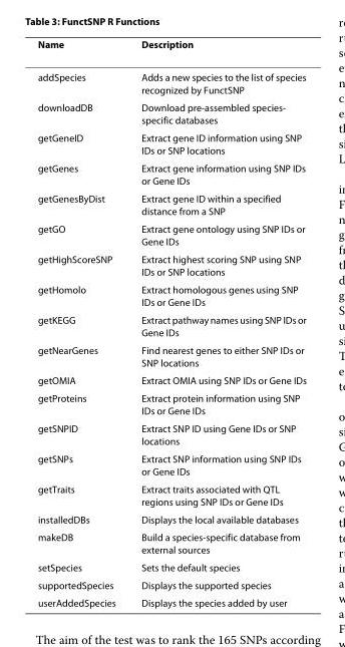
<table><thead><tr><td>Name</td><td>Description</td></tr></thead><tbody><tr><td>addSpecies</td><td>Adds a new species to the list of species recognized by FunctSNP</td></tr><tr><td>downloadDB</td><td>Download pre-assembled species- specific databases</td></tr><tr><td>getGeneID</td><td>Extract gene ID information using SNP IDs or SNP locations</td></tr><tr><td>getGenes</td><td>Extract gene information using SNP IDs or Gene IDs</td></tr><tr><td>getGenesByDist</td><td>Extract gene ID within a specified distance from a SNP</td></tr><tr><td>getGO</td><td>Extract gene ontology using SNP IDs or Gene IDs</td></tr><tr><td>getHighScoreSNP</td><td>Extract highest scoring SNP using SNP IDs or SNP locations</td></tr><tr><td>getHomolo</td><td>Extract homologous genes using SNP IDs or Gene IDs</td></tr><tr><td>getKEGG</td><td>Extract pathway names using SNP IDs or Gene IDs</td></tr><tr><td>getNearGenes</td><td>Find nearest genes to either SNP IDs or SNP locations</td></tr><tr><td>getOMIA</td><td>Extract OMIA using SNP IDs or Gene IDs</td></tr><tr><td>getProteins</td><td>Extract protein information using SNP IDs or Gene IDs</td></tr><tr><td>getSNPID</td><td>Extract SNP ID using Gene IDs or SNP locations</td></tr><tr><td>getSNPs</td><td>Extract SNP information using SNP IDs or Gene IDs</td></tr><tr><td>getTraits</td><td>Extract traits associated with QTL regions using SNP IDs or Gene IDs</td></tr><tr><td>installedDBs</td><td>Displays the local available databases</td></tr><tr><td>makeDB</td><td>Build a species-specific database from external sources</td></tr><tr><td>setSpecies</td><td>Sets the default species</td></tr><tr><td>supportedSpecies</td><td>Displays the supported species</td></tr><tr><td>userAddedSpecies</td><td>Displays the species added by user</td></tr></tbody></table>